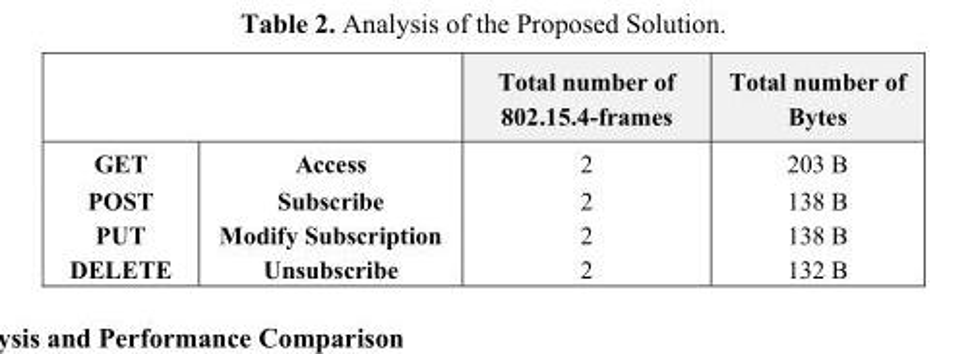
<table><thead><tr><td></td><td></td><td>Total number of 802.15.4-frames</td><td>Total number of Bytes</td></tr></thead><tbody><tr><td>GET</td><td>Access</td><td>2</td><td>203 B</td></tr><tr><td>POST</td><td>Subscribe</td><td>2</td><td>138 B</td></tr><tr><td>PUT</td><td>Modify Subscription</td><td>2</td><td>138 B</td></tr><tr><td>DELETE</td><td>Unsubscribe</td><td>2</td><td>132 B</td></tr></tbody></table>